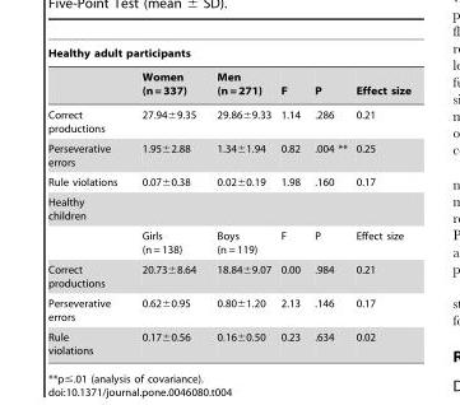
<table><thead><tr><td colspan="6">Healthy adult participants</td></tr><tr><td></td><td>Women (n = 337)</td><td>Men (n = 271)</td><td>F</td><td>P</td><td>Effect size</td></tr></thead><tbody><tr><td>Correct productions</td><td>27.94±9.35</td><td>29.86±9.33</td><td>1.14</td><td>.286</td><td>0.21</td></tr><tr><td>Perseverative errors</td><td>1.95±2.88</td><td>1.34±1.94</td><td>0.82</td><td>.004 **</td><td>0.25</td></tr><tr><td>Rule violations</td><td>0.07±0.38</td><td>0.02±0.19</td><td>1.98</td><td>.160</td><td>0.17</td></tr><tr><td colspan="6">Healthy children</td></tr><tr><td></td><td>Girls (n = 138)</td><td>Boys (n = 119)</td><td>F</td><td>P</td><td>Effect size</td></tr><tr><td>Correct productions</td><td>20.73±8.64</td><td>18.84±9.07</td><td>0.00</td><td>.984</td><td>0.21</td></tr><tr><td>Perseverative errors</td><td>0.62±0.95</td><td>0.80±1.20</td><td>2.13</td><td>.146</td><td>0.17</td></tr><tr><td>Rule violations</td><td>0.17±0.56</td><td>0.16±0.50</td><td>0.23</td><td>.634</td><td>0.02</td></tr></tbody></table>